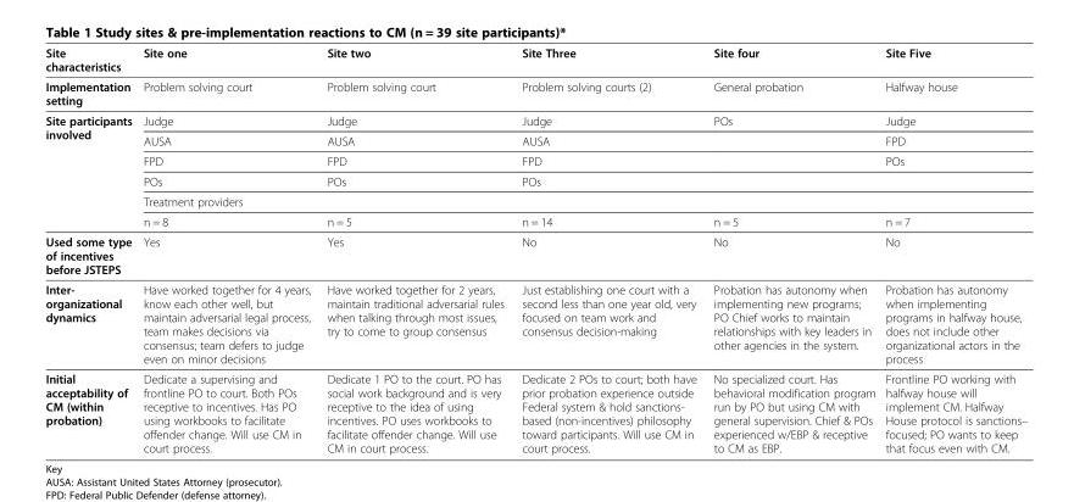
<table><thead><tr><td>Site characteristics</td><td>Site one</td><td>Site two</td><td>Site Three</td><td>Site four</td><td>Site Five</td></tr></thead><tbody><tr><td>Implementation setting</td><td>Problem solving court</td><td>Problem solving court</td><td>Problem solving courts (2)</td><td>General probation</td><td>Halfway house</td></tr><tr><td rowspan="6">Site participants involved</td><td>Judge</td><td>Judge</td><td>Judge</td><td>POs</td><td>Judge</td></tr><tr><td>AUSA</td><td>AUSA</td><td>AUSA</td><td></td><td>FPD</td></tr><tr><td>FPD</td><td>FPD</td><td>FPD</td><td></td><td>POs</td></tr><tr><td>POs</td><td>POs</td><td>POs</td><td></td><td></td></tr><tr><td>Treatment providers</td><td></td><td></td><td></td><td></td></tr><tr><td>n = 8</td><td>n = 5</td><td>n = 14</td><td>n = 5</td><td>n = 7</td></tr><tr><td>Used some type of incentives before JSTEPS</td><td>Yes</td><td>Yes</td><td>No</td><td>No</td><td>No</td></tr><tr><td>Inter- organizational dynamics</td><td>Have worked together for 4 years, know each other well, but maintain adversarial legal process, team makes decisions via consensus; team defers to judge even on minor decisions</td><td>Have worked together for 2 years, maintain traditional adversarial rules when talking through most issues, try to come to group consensus</td><td>Just establishing one court with a second less than one year old, very focused on team work and consensus decision-making</td><td>Probation has autonomy when implementing new programs; PO Chief works to maintain relationships with key leaders in other agencies in the system.</td><td>Probation has autonomy when implementing programs in halfway house, does not include other organizational actors in the process</td></tr><tr><td>Initial acceptability of CM (within probation)</td><td>Dedicate a supervising and frontline PO to court. Both POs receptive to incentives. Has PO using workbooks to facilitate offender change. Will use CM in court process.</td><td>Dedicate 1 PO to the court. PO has social work background and is very receptive to the idea of using incentives. PO uses workbooks to facilitate offender change. Will use CM in court process.</td><td>Dedicate 2 POs to court; both have prior probation experience outside Federal system &amp; hold sanctions- based (non-incentives) philosophy toward participants. Will use CM in court process.</td><td>No specialized court. Has behavioral modification program run by PO but using CM with general supervision. Chief &amp; POs experienced w/EBP &amp; receptive to CM as EBP.</td><td>Frontline PO working with halfway house will implement CM. Halfway House protocol is sanctions– focused; PO wants to keep that focus even with CM.</td></tr></tbody></table>